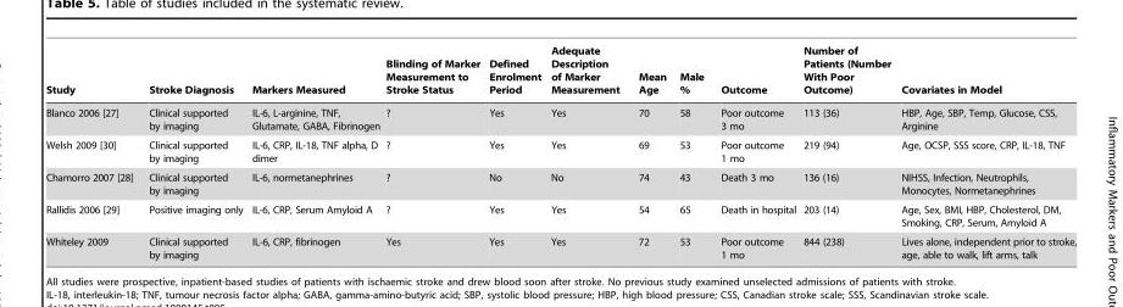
<table><thead><tr><td>Study</td><td>Stroke Diagnosis</td><td>Markers Measured</td><td>Blinding of Marker Measurement to Stroke Status</td><td>Defined Enrolment Period</td><td>Adequate Description of Marker Measurement</td><td>Mean Age</td><td>Male %</td><td>Outcome</td><td>Number of Patients (Number With Poor Outcome)</td><td>Covariates in Model</td></tr></thead><tbody><tr><td>Blanco 2006 [27]</td><td>Clinical supported by imaging</td><td>IL-6, L-arginine, TNF, Glutamate, GABA, Fibrinogen</td><td>?</td><td>Yes</td><td>Yes</td><td>70</td><td>58</td><td>Poor outcome 3 mo</td><td>113 (36)</td><td>HBP, Age, SBP, Temp, Glucose, CSS, Arginine</td></tr><tr><td>Welsh 2009 [30]</td><td>Clinical supported by imaging</td><td>IL-6, CRP, IL-18, TNF alpha, D dimer</td><td>?</td><td>Yes</td><td>Yes</td><td>69</td><td>53</td><td>Poor outcome 1 mo</td><td>219 (94)</td><td>Age, OCSP, SSS score, CRP, IL-18, TNF</td></tr><tr><td>Chamorro 2007 [28]</td><td>Clinical supported by imaging</td><td>IL-6, normetanephrines</td><td>?</td><td>No</td><td>No</td><td>74</td><td>43</td><td>Death 3 mo</td><td>136 (16)</td><td>NIHSS, Infection, Neutrophils, Monocytes, Normetanephrines</td></tr><tr><td>Rallidis 2006 [29]</td><td>Positive imaging only</td><td>IL-6, CRP, Serum Amyloid A</td><td>?</td><td>Yes</td><td>Yes</td><td>54</td><td>65</td><td>Death in hospital</td><td>203 (14)</td><td>Age, Sex, BMI, HBP, Cholesterol, DM, Smoking, CRP, Serum, Amyloid A</td></tr><tr><td>Whiteley 2009</td><td>Clinical supported by imaging</td><td>IL-6, CRP, fibrinogen</td><td>Yes</td><td>Yes</td><td>Yes</td><td>72</td><td>53</td><td>Poor outcome 1 mo</td><td>844 (238)</td><td>Lives alone, independent prior to stroke, age, able to walk, lift arms, talk</td></tr></tbody></table>